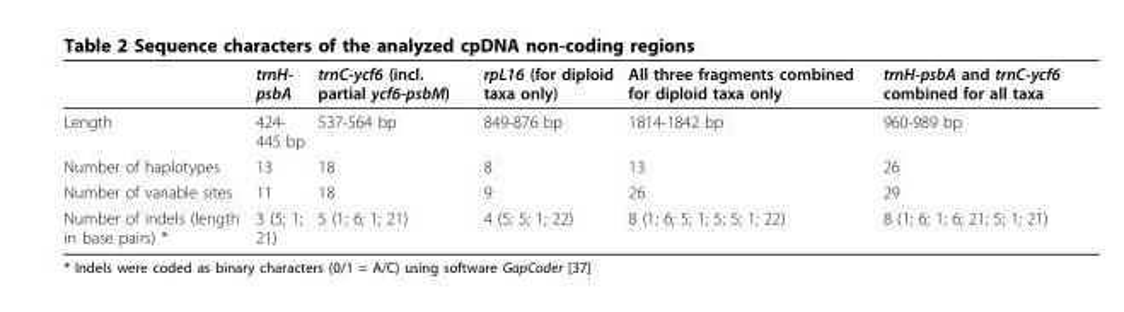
<table><thead><tr><td></td><td>trnH- psbA</td><td>trnC-ycf6 (incl. partial ycf6-psbM)</td><td>rpL16 (for diploid taxa only)</td><td>All three fragments combined for diploid taxa only</td><td>trnH-psbA and trnC-ycf6 combined for all taxa</td></tr></thead><tbody><tr><td>Length</td><td>424- 445 bp</td><td>537-564 bp</td><td>849-876 bp</td><td>1814-1842 bp</td><td>960-989 bp</td></tr><tr><td>Number of haplotypes</td><td>13</td><td>18</td><td>8</td><td>13</td><td>26</td></tr><tr><td>Number of variable sites</td><td>11</td><td>18</td><td>9</td><td>26</td><td>29</td></tr><tr><td>Number of indels (length in base pairs) *</td><td>3 (5; 1; 21)</td><td>5 (1; 6; 1; 21)</td><td>4 (5; 5; 1; 22)</td><td>8 (1; 6; 5; 1; 5; 5; 1; 22)</td><td>8 (1; 6; 1; 6; 21; 5; 1; 21)</td></tr></tbody></table>